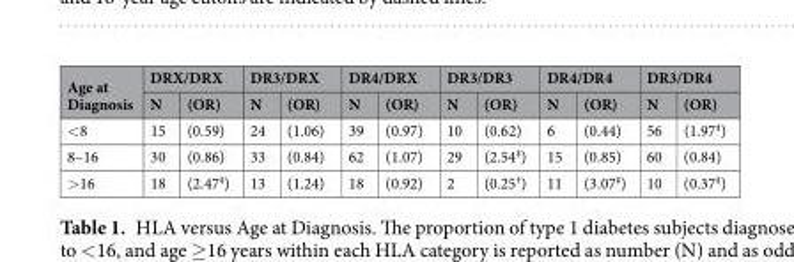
<table><thead><tr><td rowspan="2">Age at Diagnosis</td><td colspan="2">DRX/DRX</td><td colspan="2">DR3/DRX</td><td colspan="2">DR4/DRX</td><td colspan="2">DR3/DR3</td><td colspan="2">DR4/DR4</td><td colspan="2">DR3/DR4</td></tr><tr><td>N</td><td>(OR)</td><td>N</td><td>(OR)</td><td>N</td><td>(OR)</td><td>N</td><td>(OR)</td><td>N</td><td>(OR)</td><td>N</td><td>(OR)</td></tr></thead><tbody><tr><td>&lt;8</td><td>15</td><td>(0.59)</td><td>24</td><td>(1.06)</td><td>39</td><td>(0.97)</td><td>10</td><td>(0.62)</td><td>6</td><td>(0.44)</td><td>56</td><td>(1.97<sup>‡</sup>)</td></tr><tr><td>8–16</td><td>30</td><td>(0.86)</td><td>33</td><td>(0.84)</td><td>62</td><td>(1.07)</td><td>29</td><td>(2.54<sup>‡</sup>)</td><td>15</td><td>(0.85)</td><td>60</td><td>(0.84)</td></tr><tr><td>&gt;16</td><td>18</td><td>(2.47<sup>‡</sup>)</td><td>13</td><td>(1.24)</td><td>18</td><td>(0.92)</td><td>2</td><td>(0.25<sup>†</sup>)</td><td>11</td><td>(3.07<sup>‡</sup>)</td><td>10</td><td>(0.37<sup>‡</sup>)</td></tr></tbody></table>